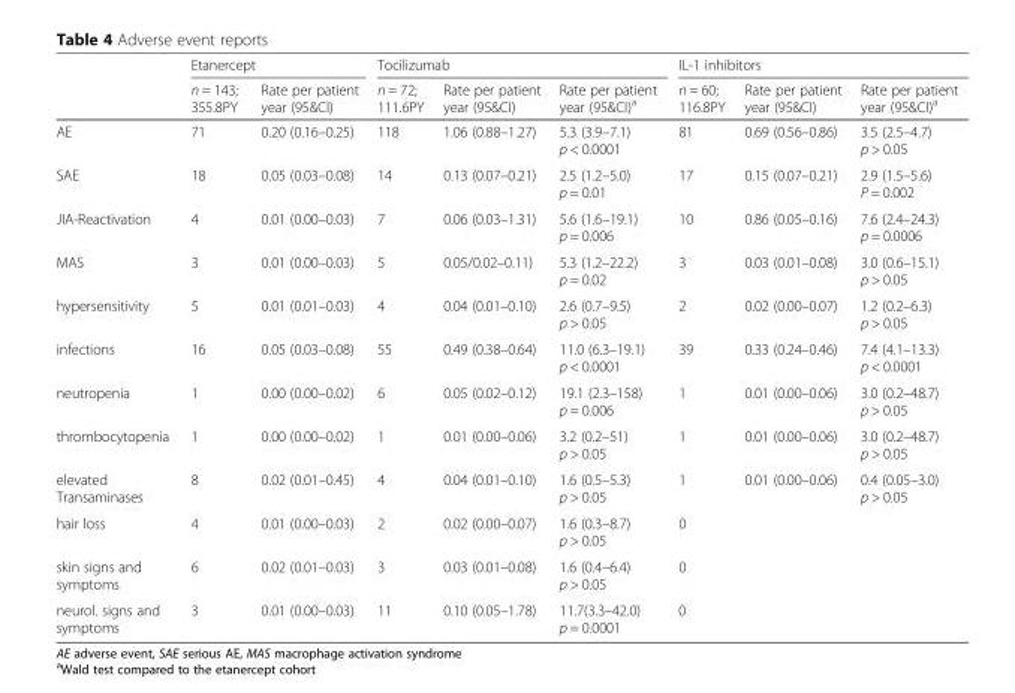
<table><thead><tr><td rowspan="2"></td><td colspan="2">Etanercept</td><td colspan="3">Tocilizumab</td><td colspan="3">IL-1 inhibitors</td></tr><tr><td>n = 143; 355.8PY</td><td>Rate per patient year (95&amp;CI)</td><td>n = 72; 111.6PY</td><td>Rate per patient year (95&amp;CI)</td><td>Rate per patient year (95&amp;CI)<sup>a</sup></td><td>n = 60; 116.8PY</td><td>Rate per patient year (95&amp;CI)</td><td>Rate per patient year (95&amp;CI)<sup>a</sup></td></tr></thead><tbody><tr><td>AE</td><td>71</td><td>0.20 (0.16–0.25)</td><td>118</td><td>1.06 (0.88–1.27)</td><td>5.3 (3.9–7.1) p &lt; 0.0001</td><td>81</td><td>0.69 (0.56–0.86)</td><td>3.5 (2.5–4.7) p &gt; 0.05</td></tr><tr><td>SAE</td><td>18</td><td>0.05 (0.03–0.08)</td><td>14</td><td>0.13 (0.07–0.21)</td><td>2.5 (1.2–5.0) p = 0.01</td><td>17</td><td>0.15 (0.07–0.21)</td><td>2.9 (1.5–5.6) P = 0.002</td></tr><tr><td>JIA-Reactivation</td><td>4</td><td>0.01 (0.00–0.03)</td><td>7</td><td>0.06 (0.03–1.31)</td><td>5.6 (1.6–19.1) p = 0.006</td><td>10</td><td>0.86 (0.05–0.16)</td><td>7.6 (2.4–24.3) p = 0.0006</td></tr><tr><td>MAS</td><td>3</td><td>0.01 (0.00–0.03)</td><td>5</td><td>0.05/0.02–0.11)</td><td>5.3 (1.2–22.2) p = 0.02</td><td>3</td><td>0.03 (0.01–0.08)</td><td>3.0 (0.6–15.1) p &gt; 0.05</td></tr><tr><td>hypersensitivity</td><td>5</td><td>0.01 (0.01–0.03)</td><td>4</td><td>0.04 (0.01–0.10)</td><td>2.6 (0.7–9.5) p &gt; 0.05</td><td>2</td><td>0.02 (0.00–0.07)</td><td>1.2 (0.2–6.3) p &gt; 0.05</td></tr><tr><td>infections</td><td>16</td><td>0.05 (0.03–0.08)</td><td>55</td><td>0.49 (0.38–0.64)</td><td>11.0 (6.3–19.1) p &lt; 0.0001</td><td>39</td><td>0.33 (0.24–0.46)</td><td>7.4 (4.1–13.3) p &lt; 0.0001</td></tr><tr><td>neutropenia</td><td>1</td><td>0.00 (0.00–0.02)</td><td>6</td><td>0.05 (0.02–0.12)</td><td>19.1 (2.3–158) p = 0.006</td><td>1</td><td>0.01 (0.00–0.06)</td><td>3.0 (0.2–48.7) p &gt; 0.05</td></tr><tr><td>thrombocytopenia</td><td>1</td><td>0.00 (0.00–0.02)</td><td>1</td><td>0.01 (0.00–0.06)</td><td>3.2 (0.2–51) p &gt; 0.05</td><td>1</td><td>0.01 (0.00–0.06)</td><td>3.0 (0.2–48.7) p &gt; 0.05</td></tr><tr><td>elevated Transaminases</td><td>8</td><td>0.02 (0.01–0.45)</td><td>4</td><td>0.04 (0.01–0.10)</td><td>1.6 (0.5–5.3) p &gt; 0.05</td><td>1</td><td>0.01 (0.00–0.06)</td><td>0.4 (0.05–3.0) p &gt; 0.05</td></tr><tr><td>hair loss</td><td>4</td><td>0.01 (0.00–0.03)</td><td>2</td><td>0.02 (0.00–0.07)</td><td>1.6 (0.3–8.7) p &gt; 0.05</td><td>0</td><td></td><td></td></tr><tr><td>skin signs and symptoms</td><td>6</td><td>0.02 (0.01–0.03)</td><td>3</td><td>0.03 (0.01–0.08)</td><td>1.6 (0.4–6.4) p &gt; 0.05</td><td>0</td><td></td><td></td></tr><tr><td>neurol. signs and symptoms</td><td>3</td><td>0.01 (0.00–0.03)</td><td>11</td><td>0.10 (0.05–1.78)</td><td>11.7(3.3–42.0) p = 0.0001</td><td>0</td><td></td><td></td></tr></tbody></table>